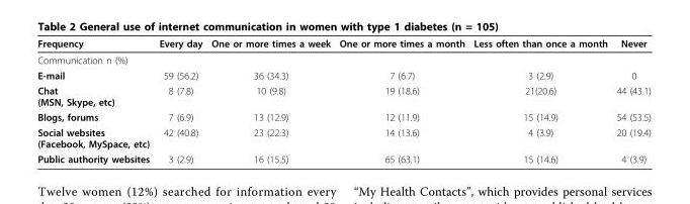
<table><thead><tr><td>Frequency</td><td>Every day</td><td>One or more times a week</td><td>One or more times a month</td><td>Less often than once a month</td><td>Never</td></tr></thead><tbody><tr><td colspan="6">Communication n (%)</td></tr><tr><td>E-mail</td><td>59 (56.2)</td><td>36 (34.3)</td><td>7 (6.7)</td><td>3 (2.9)</td><td>0</td></tr><tr><td>Chat (MSN, Skype, etc)</td><td>8 (7.8)</td><td>10 (9.8)</td><td>19 (18.6)</td><td>21(20.6)</td><td>44 (43.1)</td></tr><tr><td>Blogs, forums</td><td>7 (6.9)</td><td>13 (12.9)</td><td>12 (11.9)</td><td>15 (14.9)</td><td>54 (53.5)</td></tr><tr><td>Social websites (Facebook, MySpace, etc)</td><td>42 (40.8)</td><td>23 (22.3)</td><td>14 (13.6)</td><td>4 (3.9)</td><td>20 (19.4)</td></tr><tr><td>Public authority websites</td><td>3 (2.9)</td><td>16 (15.5)</td><td>65 (63.1)</td><td>15 (14.6)</td><td>4 (3.9)</td></tr></tbody></table>